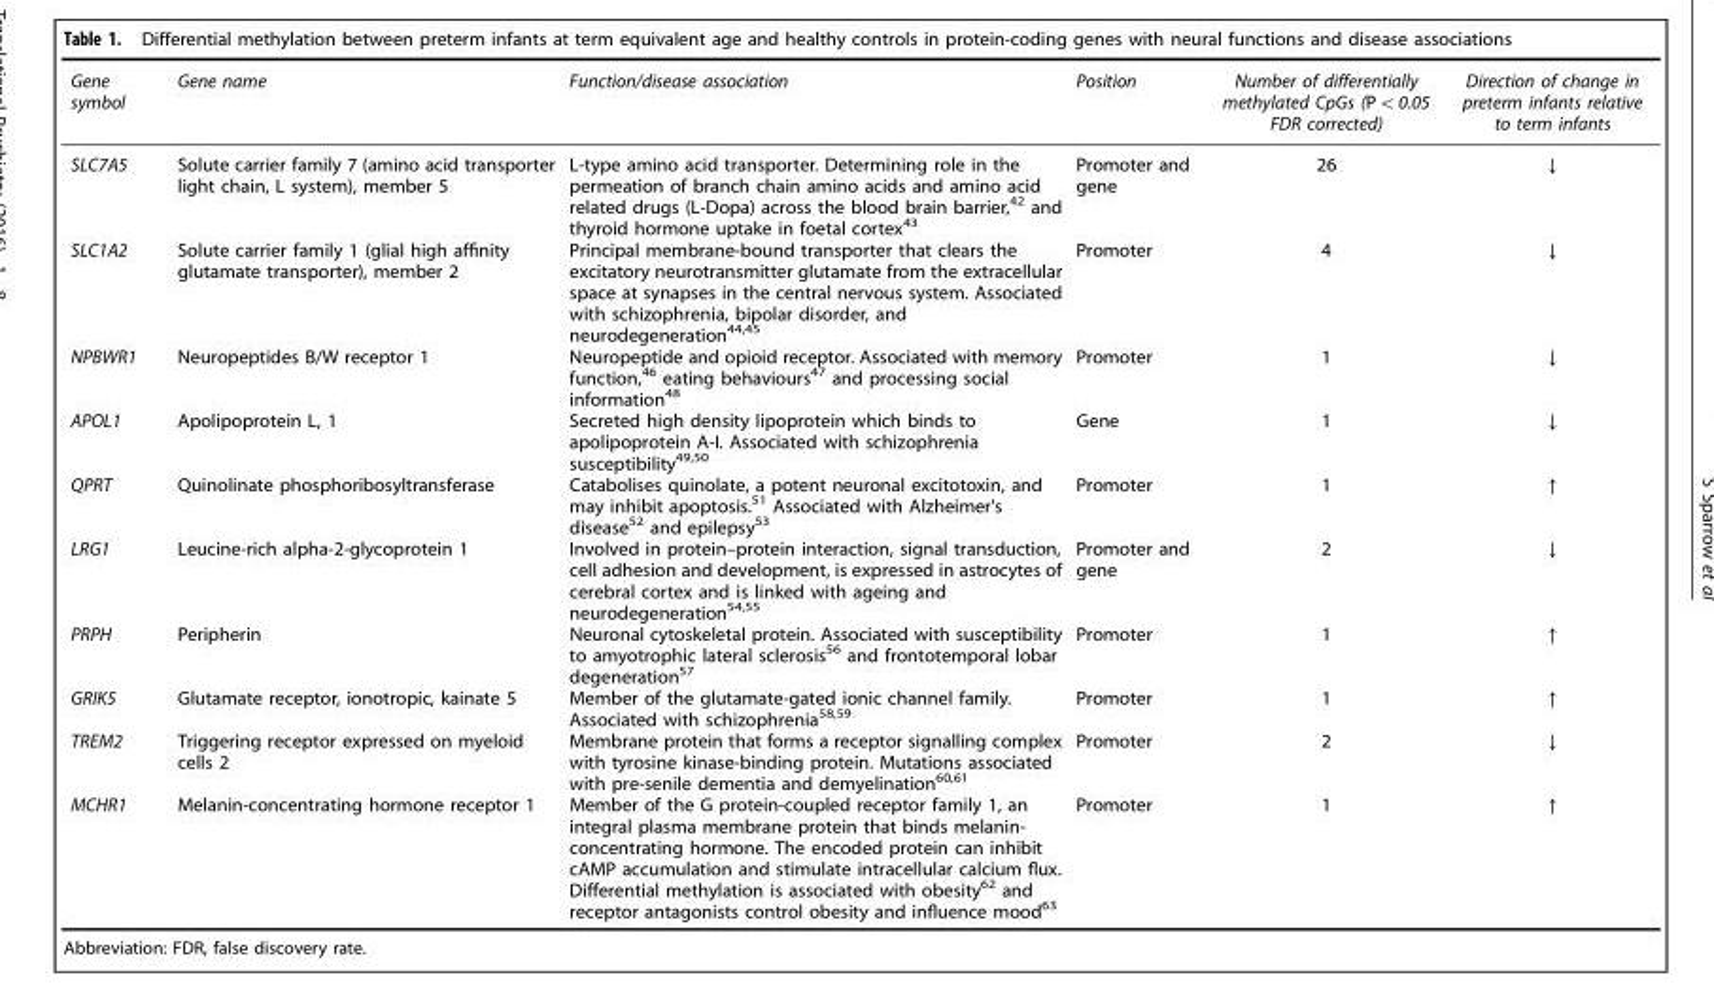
<table><thead><tr><td>Gene symbol</td><td>Gene name</td><td>Function/disease association</td><td>Position</td><td>Number of differentially methylated CpGs (P&lt;0.05 FDR corrected)</td><td>Direction of change in preterm infants relative to term infants</td></tr></thead><tbody><tr><td>SLC7A5</td><td>Solute carrier family 7 (amino acid transporter light chain, L system), member 5</td><td>L-type amino acid transporter. Determining role in the permeation of branch chain amino acids and amino acid related drugs (L-Dopa) across the blood brain barrier,<sup>42</sup> and thyroid hormone uptake in foetal cortex<sup>43</sup></td><td>Promoter and gene</td><td>26</td><td>↓</td></tr><tr><td>SLC1A2</td><td>Solute carrier family 1 (glial high affinity glutamate transporter), member 2</td><td>Principal membrane-bound transporter that clears the excitatory neurotransmitter glutamate from the extracellular space at synapses in the central nervous system. Associated with schizophrenia, bipolar disorder, and neurodegeneration<sup>44,45</sup></td><td>Promoter</td><td>4</td><td>↓</td></tr><tr><td>NPBWR1</td><td>Neuropeptides B/W receptor 1</td><td>Neuropeptide and opioid receptor. Associated with memory function,<sup>46</sup> eating behaviours<sup>47</sup> and processing social information<sup>48</sup></td><td>Promoter</td><td>1</td><td>↓</td></tr><tr><td>APOL1</td><td>Apolipoprotein L, 1</td><td>Secreted high density lipoprotein which binds to apolipoprotein A-I. Associated with schizophrenia susceptibility<sup>49,50</sup></td><td>Gene</td><td>1</td><td>↓</td></tr><tr><td>QPRT</td><td>Quinolinate phosphoribosyltransferase</td><td>Catabolises quinolate, a potent neuronal excitotoxin, and may inhibit apoptosis.<sup>51</sup> Associated with Alzheimer&#x27;s disease<sup>52</sup> and epilepsy<sup>53</sup></td><td>Promoter</td><td>1</td><td>↑</td></tr><tr><td>LRG1</td><td>Leucine-rich alpha-2-glycoprotein 1</td><td>Involved in protein–protein interaction, signal transduction, cell adhesion and development, is expressed in astrocytes of cerebral cortex and is linked with ageing and neurodegeneration<sup>54,55</sup></td><td>Promoter and gene</td><td>2</td><td>↓</td></tr><tr><td>PRPH</td><td>Peripherin</td><td>Neuronal cytoskeletal protein. Associated with susceptibility to amyotrophic lateral sclerosis<sup>56</sup> and frontotemporal lobar degeneration<sup>57</sup></td><td>Promoter</td><td>1</td><td>↑</td></tr><tr><td>GRIK5</td><td>Glutamate receptor, ionotropic, kainate 5</td><td>Member of the glutamate-gated ionic channel family. Associated with schizophrenia<sup>58,59</sup></td><td>Promoter</td><td>1</td><td>↑</td></tr><tr><td>TREM2</td><td>Triggering receptor expressed on myeloid cells 2</td><td>Membrane protein that forms a receptor signalling complex with tyrosine kinase-binding protein. Mutations associated with pre-senile dementia and demyelination<sup>60,61</sup></td><td>Promoter</td><td>2</td><td>↓</td></tr><tr><td>MCHR1</td><td>Melanin-concentrating hormone receptor 1</td><td>Member of the G protein-coupled receptor family 1, an integral plasma membrane protein that binds melanin- concentrating hormone. The encoded protein can inhibit cAMP accumulation and stimulate intracellular calcium flux. Differential methylation is associated with obesity<sup>62</sup> and receptor antagonists control obesity and influence mood<sup>63</sup></td><td>Promoter</td><td>1</td><td>↑</td></tr></tbody></table>